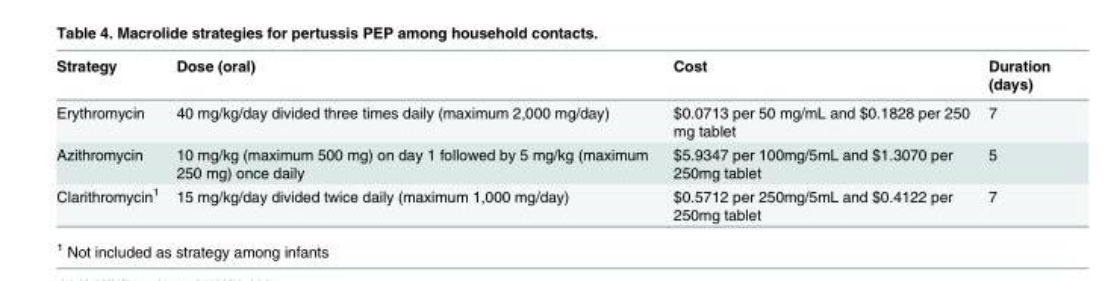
<table><thead><tr><td>Strategy</td><td>Dose (oral)</td><td>Cost</td><td>Duration (days)</td></tr></thead><tbody><tr><td>Erythromycin</td><td>40 mg/kg/day divided three times daily (maximum 2,000 mg/day)</td><td>$0.0713 per 50 mg/mL and $0.1828 per 250 mg tablet</td><td>7</td></tr><tr><td>Azithromycin</td><td>10 mg/kg (maximum 500 mg) on day 1 followed by 5 mg/kg (maximum 250 mg) once daily</td><td>$5.9347 per 100mg/5mL and $1.3070 per 250mg tablet</td><td>5</td></tr><tr><td>Clarithromycin<sup>1</sup></td><td>15 mg/kg/day divided twice daily (maximum 1,000 mg/day)</td><td>$0.5712 per 250mg/5mL and $0.4122 per 250mg tablet</td><td>7</td></tr></tbody></table>